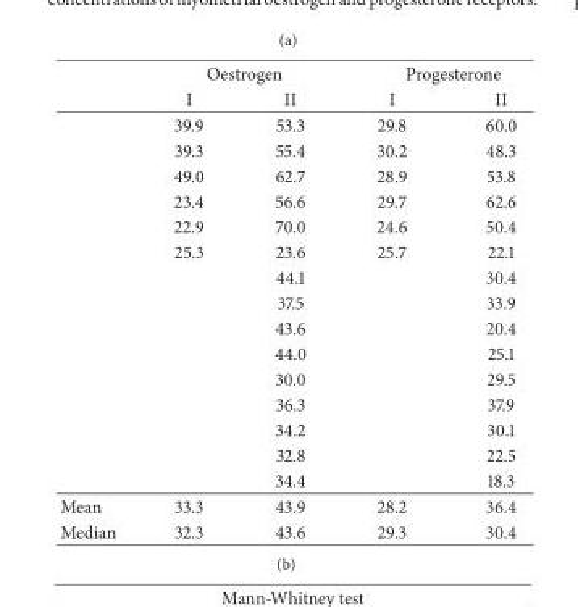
<table><thead><tr><td rowspan="2"></td><td colspan="2">Oestrogen</td><td colspan="2">Progesterone</td></tr><tr><td>I</td><td>II</td><td>I</td><td>II</td></tr></thead><tbody><tr><td></td><td>39.9</td><td>53.3</td><td>29.8</td><td>60.0</td></tr><tr><td></td><td>39.3</td><td>55.4</td><td>30.2</td><td>48.3</td></tr><tr><td></td><td>49.0</td><td>62.7</td><td>28.9</td><td>53.8</td></tr><tr><td></td><td>23.4</td><td>56.6</td><td>29.7</td><td>62.6</td></tr><tr><td></td><td>22.9</td><td>70.0</td><td>24.6</td><td>50.4</td></tr><tr><td></td><td>25.3</td><td>23.6</td><td>25.7</td><td>22.1</td></tr><tr><td></td><td></td><td>44.1</td><td></td><td>30.4</td></tr><tr><td></td><td></td><td>37.5</td><td></td><td>33.9</td></tr><tr><td></td><td></td><td>43.6</td><td></td><td>20.4</td></tr><tr><td></td><td></td><td>44.0</td><td></td><td>25.1</td></tr><tr><td></td><td></td><td>30.0</td><td></td><td>29.5</td></tr><tr><td></td><td></td><td>36.3</td><td></td><td>37.9</td></tr><tr><td></td><td></td><td>34.2</td><td></td><td>30.1</td></tr><tr><td></td><td></td><td>32.8</td><td></td><td>22.5</td></tr><tr><td></td><td></td><td>34.4</td><td></td><td>18.3</td></tr><tr><td>Mean</td><td>33.3</td><td>43.9</td><td>28.2</td><td>36.4</td></tr><tr><td>Median</td><td>32.3</td><td>43.6</td><td>29.3</td><td>30.4</td></tr></tbody></table>